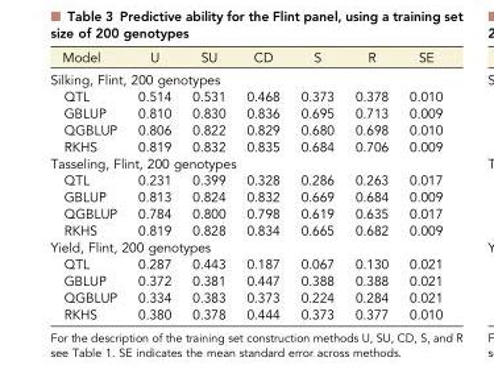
<table><thead><tr><td>Model</td><td>U</td><td>SU</td><td>CD</td><td>S</td><td>R</td><td>SE</td></tr></thead><tbody><tr><td colspan="7">Silking, Flint, 200 genotypes</td></tr><tr><td>QTL</td><td>0.514</td><td>0.531</td><td>0.468</td><td>0.373</td><td>0.378</td><td>0.010</td></tr><tr><td>GBLUP</td><td>0.810</td><td>0.830</td><td>0.836</td><td>0.695</td><td>0.713</td><td>0.009</td></tr><tr><td>QGBLUP</td><td>0.806</td><td>0.822</td><td>0.829</td><td>0.680</td><td>0.698</td><td>0.010</td></tr><tr><td>RKHS</td><td>0.819</td><td>0.832</td><td>0.835</td><td>0.684</td><td>0.706</td><td>0.009</td></tr><tr><td colspan="7">Tasseling, Flint, 200 genotypes</td></tr><tr><td>QTL</td><td>0.231</td><td>0.399</td><td>0.328</td><td>0.286</td><td>0.263</td><td>0.017</td></tr><tr><td>GBLUP</td><td>0.813</td><td>0.824</td><td>0.832</td><td>0.669</td><td>0.684</td><td>0.009</td></tr><tr><td>QGBLUP</td><td>0.784</td><td>0.800</td><td>0.798</td><td>0.619</td><td>0.635</td><td>0.017</td></tr><tr><td>RKHS</td><td>0.819</td><td>0.828</td><td>0.834</td><td>0.665</td><td>0.682</td><td>0.009</td></tr><tr><td colspan="7">Yield, Flint, 200 genotypes</td></tr><tr><td>QTL</td><td>0.287</td><td>0.443</td><td>0.187</td><td>0.067</td><td>0.130</td><td>0.021</td></tr><tr><td>GBLUP</td><td>0.372</td><td>0.381</td><td>0.447</td><td>0.388</td><td>0.388</td><td>0.021</td></tr><tr><td>QGBLUP</td><td>0.334</td><td>0.383</td><td>0.373</td><td>0.224</td><td>0.284</td><td>0.021</td></tr><tr><td>RKHS</td><td>0.380</td><td>0.378</td><td>0.444</td><td>0.373</td><td>0.377</td><td>0.010</td></tr></tbody></table>